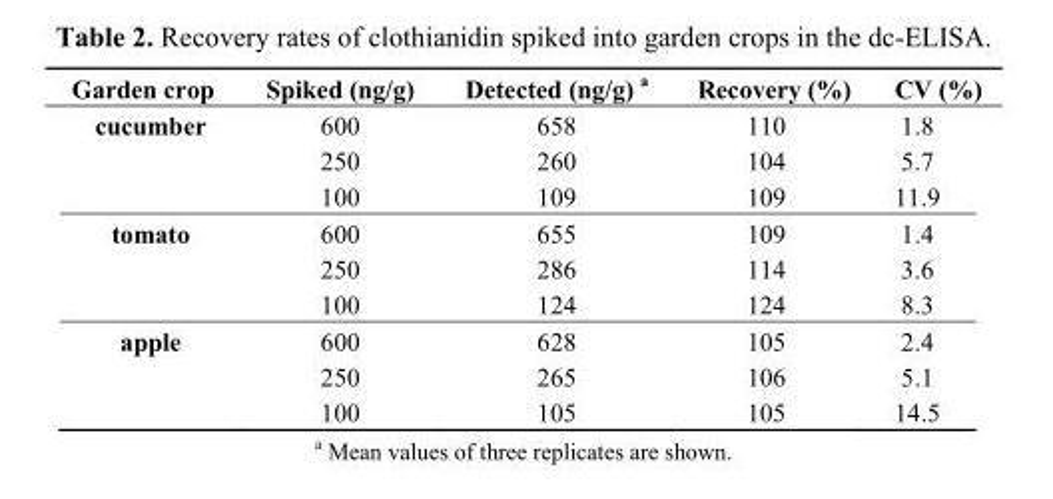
<table><thead><tr><td>Garden crop</td><td>Spiked (ng/g)</td><td>Detected (ng/g) <sup>a</sup></td><td>Recovery (%)</td><td>CV (%)</td></tr></thead><tbody><tr><td rowspan="3">cucumber</td><td>600</td><td>658</td><td>110</td><td>1.8</td></tr><tr><td>250</td><td>260</td><td>104</td><td>5.7</td></tr><tr><td>100</td><td>109</td><td>109</td><td>11.9</td></tr><tr><td rowspan="3">tomato</td><td>600</td><td>655</td><td>109</td><td>1.4</td></tr><tr><td>250</td><td>286</td><td>114</td><td>3.6</td></tr><tr><td>100</td><td>124</td><td>124</td><td>8.3</td></tr><tr><td rowspan="3">apple</td><td>600</td><td>628</td><td>105</td><td>2.4</td></tr><tr><td>250</td><td>265</td><td>106</td><td>5.1</td></tr><tr><td>100</td><td>105</td><td>105</td><td>14.5</td></tr></tbody></table>